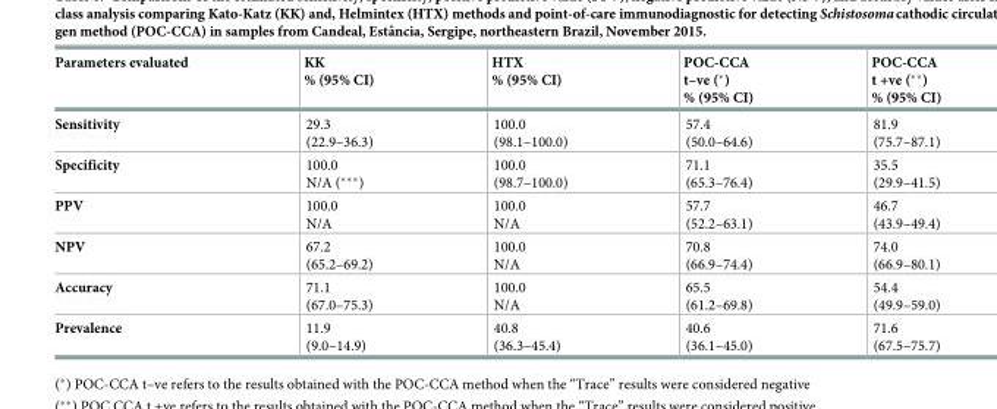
<table><thead><tr><td>Parameters evaluated</td><td>KK % (95% CI)</td><td>HTX % (95% CI)</td><td>POC-CCA t–ve (*) % (95% CI)</td><td>POC-CCA t +ve (**) % (95% CI)</td></tr></thead><tbody><tr><td>Sensitivity</td><td>29.3 (22.9–36.3)</td><td>100.0 (98.1–100.0)</td><td>57.4 (50.0–64.6)</td><td>81.9 (75.7–87.1)</td></tr><tr><td>Specificity</td><td>100.0 N/A (***)</td><td>100.0 (98.7–100.0)</td><td>71.1 (65.3–76.4)</td><td>35.5 (29.9–41.5)</td></tr><tr><td>PPV</td><td>100.0 N/A</td><td>100.0 N/A</td><td>57.7 (52.2–63.1)</td><td>46.7 (43.9–49.4)</td></tr><tr><td>NPV</td><td>67.2 (65.2–69.2)</td><td>100.0 N/A</td><td>70.8 (66.9–74.4)</td><td>74.0 (66.9–80.1)</td></tr><tr><td>Accuracy</td><td>71.1 (67.0–75.3)</td><td>100.0 N/A</td><td>65.5 (61.2–69.8)</td><td>54.4 (49.9–59.0)</td></tr><tr><td>Prevalence</td><td>11.9 (9.0–14.9)</td><td>40.8 (36.3–45.4)</td><td>40.6 (36.1–45.0)</td><td>71.6 (67.5–75.7)</td></tr></tbody></table>